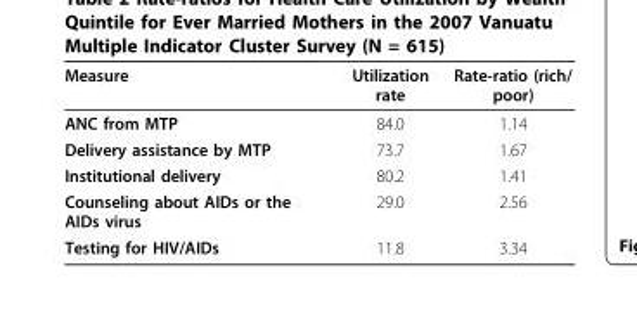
<table><thead><tr><td>Measure</td><td>Utilization rate</td><td>Rate-ratio (rich/ poor)</td></tr></thead><tbody><tr><td>ANC from MTP</td><td>84.0</td><td>1.14</td></tr><tr><td>Delivery assistance by MTP</td><td>73.7</td><td>1.67</td></tr><tr><td>Institutional delivery</td><td>80.2</td><td>1.41</td></tr><tr><td>Counseling about AIDs or the AIDs virus</td><td>29.0</td><td>2.56</td></tr><tr><td>Testing for HIV/AIDs</td><td>11.8</td><td>3.34</td></tr></tbody></table>